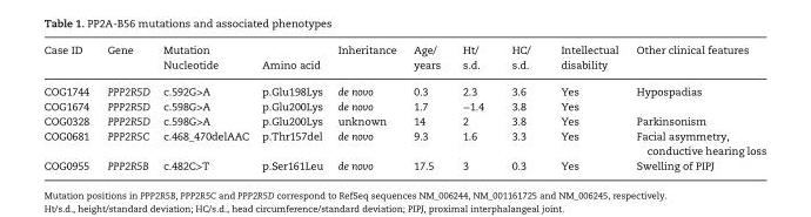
<table><thead><tr><td rowspan="2">Case ID</td><td rowspan="2">Gene</td><td colspan="2">Mutation</td><td rowspan="2">Inheritance</td><td rowspan="2">Age/ years</td><td rowspan="2">Ht/ s.d.</td><td rowspan="2">HC/ s.d.</td><td rowspan="2">Intellectual disability</td><td rowspan="2">Other clinical features</td></tr><tr><td>Nucleotide</td><td>Amino acid</td></tr></thead><tbody><tr><td>COG1744</td><td>PPP2R5D</td><td>c.592G&gt;A</td><td>p.Glu198Lys</td><td>de novo</td><td>0.3</td><td>2.3</td><td>3.6</td><td>Yes</td><td>Hypospadias</td></tr><tr><td>COG1674</td><td>PPP2R5D</td><td>c.598G&gt;A</td><td>p.Glu200Lys</td><td>de novo</td><td>1.7</td><td>−1.4</td><td>3.8</td><td>Yes</td><td></td></tr><tr><td>COG0328</td><td>PPP2R5D</td><td>c.598G&gt;A</td><td>p.Glu200Lys</td><td>unknown</td><td>14</td><td>2</td><td>3.8</td><td>Yes</td><td>Parkinsonism</td></tr><tr><td>COG0681</td><td>PPP2R5C</td><td>c.468_470delAAC</td><td>p.Thr157del</td><td>de novo</td><td>9.3</td><td>1.6</td><td>3.3</td><td>Yes</td><td>Facial asymmetry, conductive hearing loss</td></tr><tr><td>COG0955</td><td>PPP2R5B</td><td>c.482C&gt;T</td><td>p.Ser161Leu</td><td>de novo</td><td>17.5</td><td>3</td><td>0.3</td><td>Yes</td><td>Swelling of PIPJ</td></tr></tbody></table>